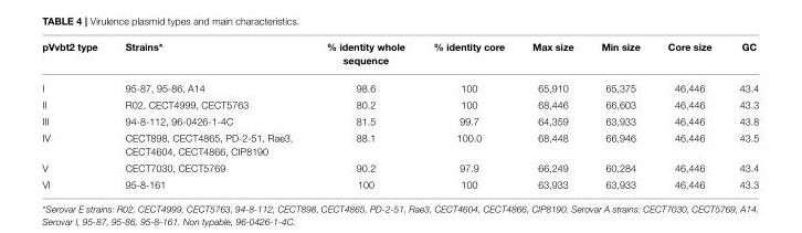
<table><thead><tr><td>pVvbt2 type</td><td>Strains*</td><td>% identity whole sequence</td><td>% identity core</td><td>Max size</td><td>Min size</td><td>Core size</td><td>GC</td></tr></thead><tbody><tr><td>I</td><td>95-87, 95-86, A14</td><td>98.6</td><td>100</td><td>65,910</td><td>65,375</td><td>46,446</td><td>43.4</td></tr><tr><td>II</td><td>R02, CECT4999, CECT5763</td><td>80.2</td><td>100</td><td>68,446</td><td>66,603</td><td>46,446</td><td>43.3</td></tr><tr><td>III</td><td>94-8-112, 96-0426-1-4C</td><td>81.5</td><td>99.7</td><td>64,359</td><td>63,933</td><td>46,446</td><td>43.8</td></tr><tr><td>IV</td><td>CECT898, CECT4865, PD-2-51, Rae3, CECT4604, CECT4866, CIP8190</td><td>88.1</td><td>100.0</td><td>68,448</td><td>66,946</td><td>46,446</td><td>43.5</td></tr><tr><td>V</td><td>CECT7030, CECT5769</td><td>90.2</td><td>97.9</td><td>66,249</td><td>60,284</td><td>46,446</td><td>43.4</td></tr><tr><td>VI</td><td>95-8-161</td><td>100</td><td>100</td><td>63,933</td><td>63,933</td><td>46,446</td><td>43.3</td></tr></tbody></table>